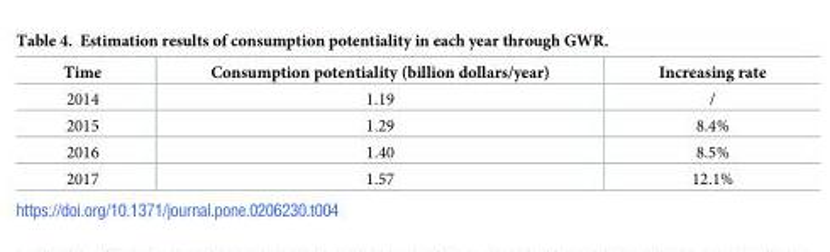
<table><thead><tr><td>Time</td><td>Consumption potentiality (billion dollars/year)</td><td>Increasing rate</td></tr></thead><tbody><tr><td>2014</td><td>1.19</td><td>/</td></tr><tr><td>2015</td><td>1.29</td><td>8.4%</td></tr><tr><td>2016</td><td>1.40</td><td>8.5%</td></tr><tr><td>2017</td><td>1.57</td><td>12.1%</td></tr></tbody></table>